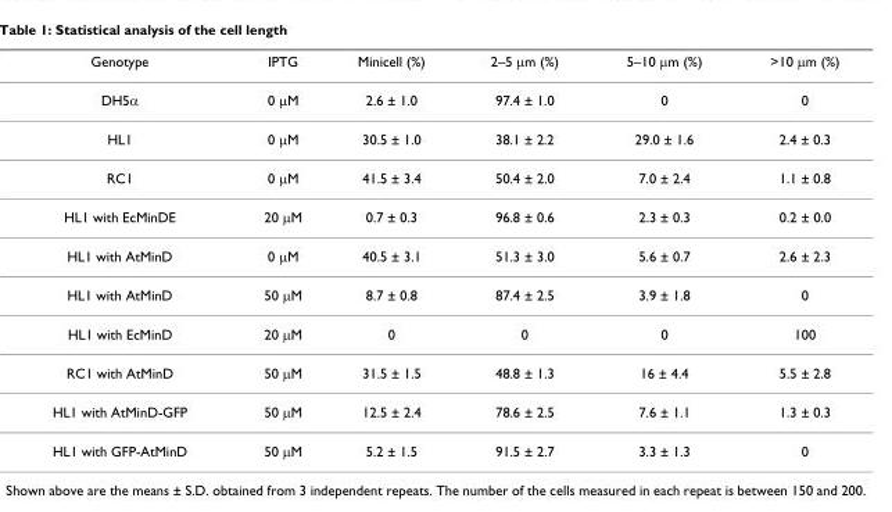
<table><thead><tr><td>Genotype</td><td>IPTG</td><td>Minicell (%)</td><td>2–5 μm (%)</td><td>5–10 μm (%)</td><td>&gt;10 μm (%)</td></tr></thead><tbody><tr><td>DH5α</td><td>0 μM</td><td>2.6 ± 1.0</td><td>97.4 ± 1.0</td><td>0</td><td>0</td></tr><tr><td>HL1</td><td>0 μM</td><td>30.5 ± 1.0</td><td>38.1 ± 2.2</td><td>29.0 ± 1.6</td><td>2.4 ± 0.3</td></tr><tr><td>RC1</td><td>0 μM</td><td>41.5 ± 3.4</td><td>50.4 ± 2.0</td><td>7.0 ± 2.4</td><td>1.1 ± 0.8</td></tr><tr><td>HL1 with EcMinDE</td><td>20 μM</td><td>0.7 ± 0.3</td><td>96.8 ± 0.6</td><td>2.3 ± 0.3</td><td>0.2 ± 0.0</td></tr><tr><td>HL1 with AtMinD</td><td>0 μM</td><td>40.5 ± 3.1</td><td>51.3 ± 3.0</td><td>5.6 ± 0.7</td><td>2.6 ± 2.3</td></tr><tr><td>HL1 with AtMinD</td><td>50 μM</td><td>8.7 ± 0.8</td><td>87.4 ± 2.5</td><td>3.9 ± 1.8</td><td>0</td></tr><tr><td>HL1 with EcMinD</td><td>20 μM</td><td>0</td><td>0</td><td>0</td><td>100</td></tr><tr><td>RC1 with AtMinD</td><td>50 μM</td><td>31.5 ± 1.5</td><td>48.8 ± 1.3</td><td>16 ± 4.4</td><td>5.5 ± 2.8</td></tr><tr><td>HL1 with AtMinD-GFP</td><td>50 μM</td><td>12.5 ± 2.4</td><td>78.6 ± 2.5</td><td>7.6 ± 1.1</td><td>1.3 ± 0.3</td></tr><tr><td>HL1 with GFP-AtMinD</td><td>50 μM</td><td>5.2 ± 1.5</td><td>91.5 ± 2.7</td><td>3.3 ± 1.3</td><td>0</td></tr></tbody></table>